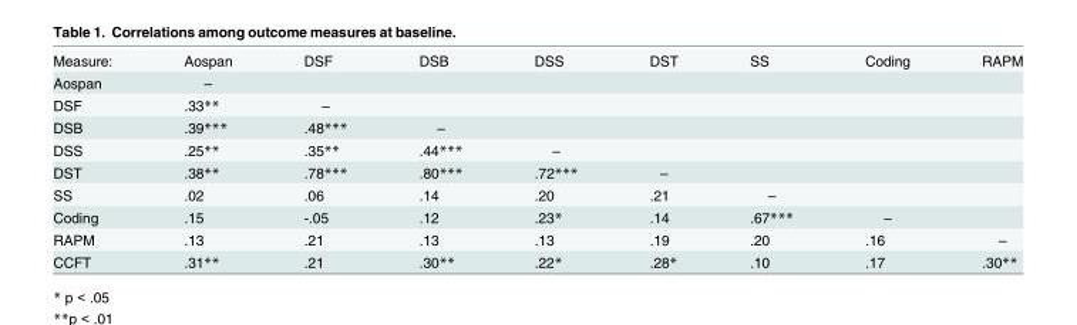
<table><tbody><tr><td>Measure:</td><td>Aospan</td><td>DSF</td><td>DSB</td><td>DSS</td><td>DST</td><td>SS</td><td>Coding</td><td>RAPM</td></tr><tr><td>Aospan</td><td>–</td><td></td><td></td><td></td><td></td><td></td><td></td><td></td></tr><tr><td>DSF</td><td>.33**</td><td>–</td><td></td><td></td><td></td><td></td><td></td><td></td></tr><tr><td>DSB</td><td>.39***</td><td>.48***</td><td>–</td><td></td><td></td><td></td><td></td><td></td></tr><tr><td>DSS</td><td>.25**</td><td>.35**</td><td>.44***</td><td>–</td><td></td><td></td><td></td><td></td></tr><tr><td>DST</td><td>.38**</td><td>.78***</td><td>.80***</td><td>.72***</td><td>–</td><td></td><td></td><td></td></tr><tr><td>SS</td><td>.02</td><td>.06</td><td>.14</td><td>.20</td><td>.21</td><td>–</td><td></td><td></td></tr><tr><td>Coding</td><td>.15</td><td>-.05</td><td>.12</td><td>.23*</td><td>.14</td><td>.67***</td><td>–</td><td></td></tr><tr><td>RAPM</td><td>.13</td><td>.21</td><td>.13</td><td>.13</td><td>.19</td><td>.20</td><td>.16</td><td>–</td></tr><tr><td>CCFT</td><td>.31**</td><td>.21</td><td>.30**</td><td>.22*</td><td>.28*</td><td>.10</td><td>.17</td><td>.30**</td></tr></tbody></table>